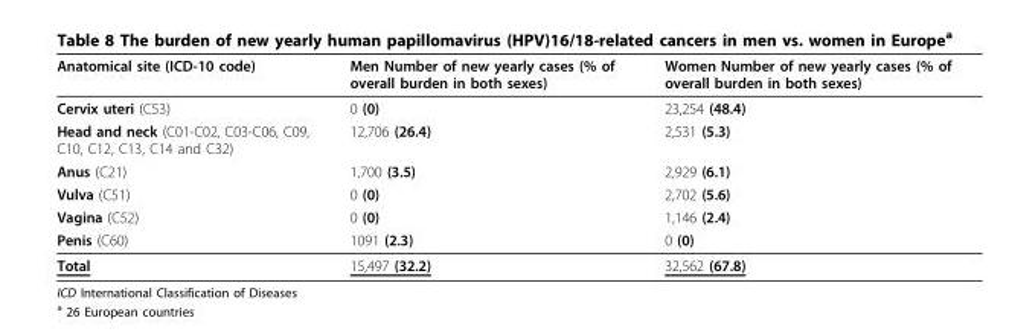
<table><thead><tr><td>Anatomical site (ICD-10 code)</td><td>Men Number of new yearly cases (% of overall burden in both sexes)</td><td>Women Number of new yearly cases (% of overall burden in both sexes)</td></tr></thead><tbody><tr><td>Cervix uteri (C53)</td><td>0 (0)</td><td>23,254 (48.4)</td></tr><tr><td>Head and neck (C01-C02, C03-C06, C09, C10, C12, C13, C14 and C32)</td><td>12,706 (26.4)</td><td>2,531 (5.3)</td></tr><tr><td>Anus (C21)</td><td>1,700 (3.5)</td><td>2,929 (6.1)</td></tr><tr><td>Vulva (C51)</td><td>0 (0)</td><td>2,702 (5.6)</td></tr><tr><td>Vagina (C52)</td><td>0 (0)</td><td>1,146 (2.4)</td></tr><tr><td>Penis (C60)</td><td>1091 (2.3)</td><td>0 (0)</td></tr><tr><td>Total</td><td>15,497 (32.2)</td><td>32,562 (67.8)</td></tr></tbody></table>